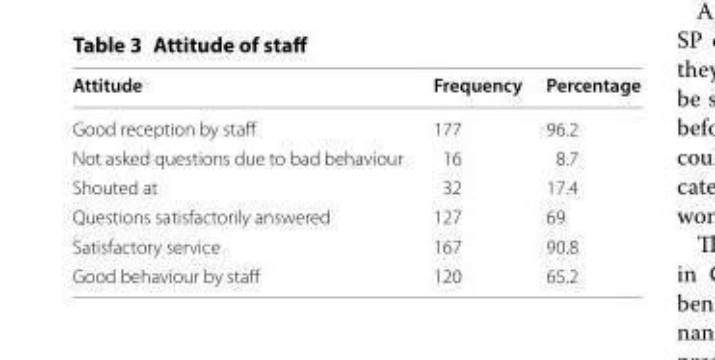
<table><thead><tr><td>Attitude</td><td>Frequency</td><td>Percentage</td></tr></thead><tbody><tr><td>Good reception by staff</td><td>177</td><td>96.2</td></tr><tr><td>Not asked questions due to bad behaviour</td><td>16</td><td>8.7</td></tr><tr><td>Shouted at</td><td>32</td><td>17.4</td></tr><tr><td>Questions satisfactorily answered</td><td>127</td><td>69</td></tr><tr><td>Satisfactory service</td><td>167</td><td>90.8</td></tr><tr><td>Good behaviour by staff</td><td>120</td><td>65.2</td></tr></tbody></table>